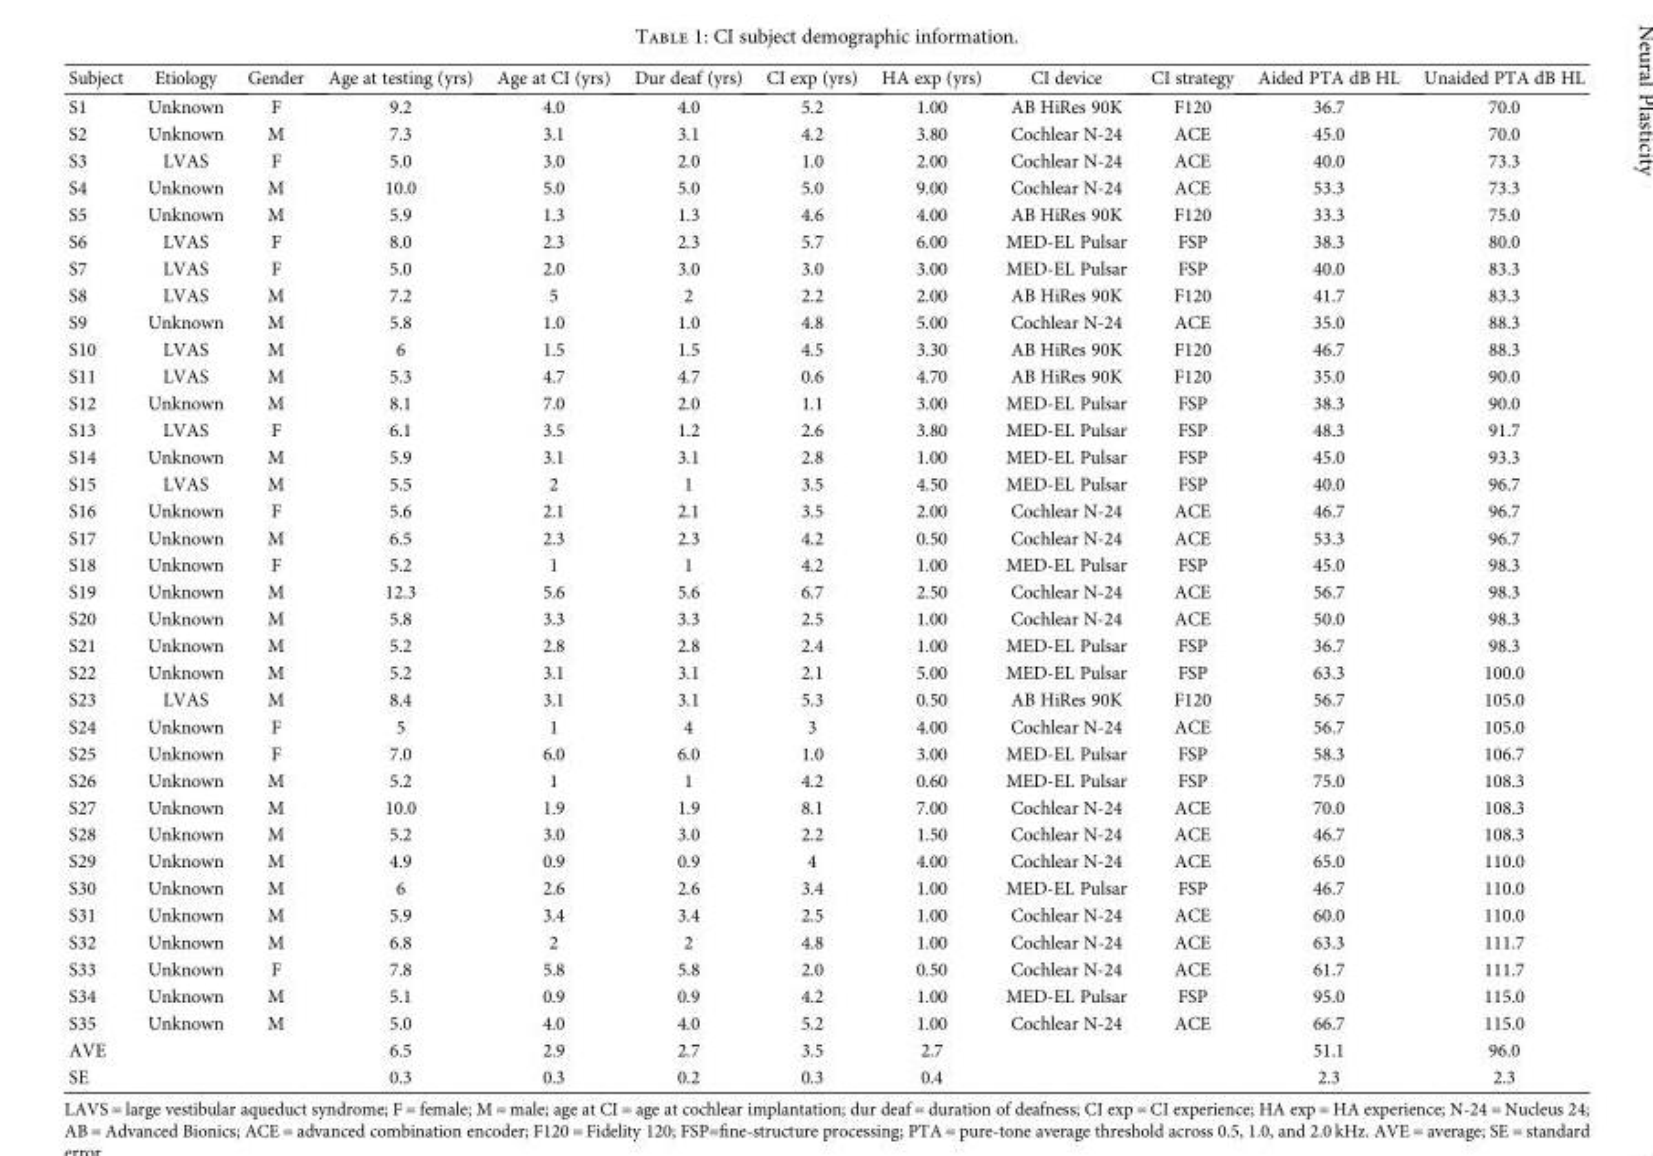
<table><thead><tr><td>Subject</td><td>Etiology</td><td>Gender</td><td>Age at testing (yrs)</td><td>Age at CI (yrs)</td><td>Dur deaf (yrs)</td><td>CI exp (yrs)</td><td>HA exp (yrs)</td><td>CI device</td><td>CI strategy</td><td>Aided PTA dB HL</td><td>Unaided PTA dB HL</td></tr></thead><tbody><tr><td>S1</td><td>Unknown</td><td>F</td><td>9.2</td><td>4.0</td><td>4.0</td><td>5.2</td><td>1.00</td><td>AB HiRes 90K</td><td>F120</td><td>36.7</td><td>70.0</td></tr><tr><td>S2</td><td>Unknown</td><td>M</td><td>7.3</td><td>3.1</td><td>3.1</td><td>4.2</td><td>3.80</td><td>Cochlear N-24</td><td>ACE</td><td>45.0</td><td>70.0</td></tr><tr><td>S3</td><td>LVAS</td><td>F</td><td>5.0</td><td>3.0</td><td>2.0</td><td>1.0</td><td>2.00</td><td>Cochlear N-24</td><td>ACE</td><td>40.0</td><td>73.3</td></tr><tr><td>S4</td><td>Unknown</td><td>M</td><td>10.0</td><td>5.0</td><td>5.0</td><td>5.0</td><td>9.00</td><td>Cochlear N-24</td><td>ACE</td><td>53.3</td><td>73.3</td></tr><tr><td>S5</td><td>Unknown</td><td>M</td><td>5.9</td><td>1.3</td><td>1.3</td><td>4.6</td><td>4.00</td><td>AB HiRes 90K</td><td>F120</td><td>33.3</td><td>75.0</td></tr><tr><td>S6</td><td>LVAS</td><td>F</td><td>8.0</td><td>2.3</td><td>2.3</td><td>5.7</td><td>6.00</td><td>MED-EL Pulsar</td><td>FSP</td><td>38.3</td><td>80.0</td></tr><tr><td>S7</td><td>LVAS</td><td>F</td><td>5.0</td><td>2.0</td><td>3.0</td><td>3.0</td><td>3.00</td><td>MED-EL Pulsar</td><td>FSP</td><td>40.0</td><td>83.3</td></tr><tr><td>S8</td><td>LVAS</td><td>M</td><td>7.2</td><td>5</td><td>2</td><td>2.2</td><td>2.00</td><td>AB HiRes 90K</td><td>F120</td><td>41.7</td><td>83.3</td></tr><tr><td>S9</td><td>Unknown</td><td>M</td><td>5.8</td><td>1.0</td><td>1.0</td><td>4.8</td><td>5.00</td><td>Cochlear N-24</td><td>ACE</td><td>35.0</td><td>88.3</td></tr><tr><td>S10</td><td>LVAS</td><td>M</td><td>6</td><td>1.5</td><td>1.5</td><td>4.5</td><td>3.30</td><td>AB HiRes 90K</td><td>F120</td><td>46.7</td><td>88.3</td></tr><tr><td>S11</td><td>LVAS</td><td>M</td><td>5.3</td><td>4.7</td><td>4.7</td><td>0.6</td><td>4.70</td><td>AB HiRes 90K</td><td>F120</td><td>35.0</td><td>90.0</td></tr><tr><td>S12</td><td>Unknown</td><td>M</td><td>8.1</td><td>7.0</td><td>2.0</td><td>1.1</td><td>3.00</td><td>MED-EL Pulsar</td><td>FSP</td><td>38.3</td><td>90.0</td></tr><tr><td>S13</td><td>LVAS</td><td>F</td><td>6.1</td><td>3.5</td><td>1.2</td><td>2.6</td><td>3.80</td><td>MED-EL Pulsar</td><td>FSP</td><td>48.3</td><td>91.7</td></tr><tr><td>S14</td><td>Unknown</td><td>M</td><td>5.9</td><td>3.1</td><td>3.1</td><td>2.8</td><td>1.00</td><td>MED-EL Pulsar</td><td>FSP</td><td>45.0</td><td>93.3</td></tr><tr><td>S15</td><td>LVAS</td><td>M</td><td>5.5</td><td>2</td><td>1</td><td>3.5</td><td>4.50</td><td>MED-EL Pulsar</td><td>FSP</td><td>40.0</td><td>96.7</td></tr><tr><td>S16</td><td>Unknown</td><td>F</td><td>5.6</td><td>2.1</td><td>2.1</td><td>3.5</td><td>2.00</td><td>Cochlear N-24</td><td>ACE</td><td>46.7</td><td>96.7</td></tr><tr><td>S17</td><td>Unknown</td><td>M</td><td>6.5</td><td>2.3</td><td>2.3</td><td>4.2</td><td>0.50</td><td>Cochlear N-24</td><td>ACE</td><td>53.3</td><td>96.7</td></tr><tr><td>S18</td><td>Unknown</td><td>F</td><td>5.2</td><td>1</td><td>1</td><td>4.2</td><td>1.00</td><td>MED-EL Pulsar</td><td>FSP</td><td>45.0</td><td>98.3</td></tr><tr><td>S19</td><td>Unknown</td><td>M</td><td>12.3</td><td>5.6</td><td>5.6</td><td>6.7</td><td>2.50</td><td>Cochlear N-24</td><td>ACE</td><td>56.7</td><td>98.3</td></tr><tr><td>S20</td><td>Unknown</td><td>M</td><td>5.8</td><td>3.3</td><td>3.3</td><td>2.5</td><td>1.00</td><td>Cochlear N-24</td><td>ACE</td><td>50.0</td><td>98.3</td></tr><tr><td>S21</td><td>Unknown</td><td>M</td><td>5.2</td><td>2.8</td><td>2.8</td><td>2.4</td><td>1.00</td><td>MED-EL Pulsar</td><td>FSP</td><td>36.7</td><td>98.3</td></tr><tr><td>S22</td><td>Unknown</td><td>M</td><td>5.2</td><td>3.1</td><td>3.1</td><td>2.1</td><td>5.00</td><td>MED-EL Pulsar</td><td>FSP</td><td>63.3</td><td>100.0</td></tr><tr><td>S23</td><td>LVAS</td><td>M</td><td>8.4</td><td>3.1</td><td>3.1</td><td>5.3</td><td>0.50</td><td>AB HiRes 90K</td><td>F120</td><td>56.7</td><td>105.0</td></tr><tr><td>S24</td><td>Unknown</td><td>F</td><td>5</td><td>1</td><td>4</td><td>3</td><td>4.00</td><td>Cochlear N-24</td><td>ACE</td><td>56.7</td><td>105.0</td></tr><tr><td>S25</td><td>Unknown</td><td>F</td><td>7.0</td><td>6.0</td><td>6.0</td><td>1.0</td><td>3.00</td><td>MED-EL Pulsar</td><td>FSP</td><td>58.3</td><td>106.7</td></tr><tr><td>S26</td><td>Unknown</td><td>M</td><td>5.2</td><td>1</td><td>1</td><td>4.2</td><td>0.60</td><td>MED-EL Pulsar</td><td>FSP</td><td>75.0</td><td>108.3</td></tr><tr><td>S27</td><td>Unknown</td><td>M</td><td>10.0</td><td>1.9</td><td>1.9</td><td>8.1</td><td>7.00</td><td>Cochlear N-24</td><td>ACE</td><td>70.0</td><td>108.3</td></tr><tr><td>S28</td><td>Unknown</td><td>M</td><td>5.2</td><td>3.0</td><td>3.0</td><td>2.2</td><td>1.50</td><td>Cochlear N-24</td><td>ACE</td><td>46.7</td><td>108.3</td></tr><tr><td>S29</td><td>Unknown</td><td>M</td><td>4.9</td><td>0.9</td><td>0.9</td><td>4</td><td>4.00</td><td>Cochlear N-24</td><td>ACE</td><td>65.0</td><td>110.0</td></tr><tr><td>S30</td><td>Unknown</td><td>M</td><td>6</td><td>2.6</td><td>2.6</td><td>3.4</td><td>1.00</td><td>MED-EL Pulsar</td><td>FSP</td><td>46.7</td><td>110.0</td></tr><tr><td>S31</td><td>Unknown</td><td>M</td><td>5.9</td><td>3.4</td><td>3.4</td><td>2.5</td><td>1.00</td><td>Cochlear N-24</td><td>ACE</td><td>60.0</td><td>110.0</td></tr><tr><td>S32</td><td>Unknown</td><td>M</td><td>6.8</td><td>2</td><td>2</td><td>4.8</td><td>1.00</td><td>Cochlear N-24</td><td>ACE</td><td>63.3</td><td>111.7</td></tr><tr><td>S33</td><td>Unknown</td><td>F</td><td>7.8</td><td>5.8</td><td>5.8</td><td>2.0</td><td>0.50</td><td>Cochlear N-24</td><td>ACE</td><td>61.7</td><td>111.7</td></tr><tr><td>S34</td><td>Unknown</td><td>M</td><td>5.1</td><td>0.9</td><td>0.9</td><td>4.2</td><td>1.00</td><td>MED-EL Pulsar</td><td>FSP</td><td>95.0</td><td>115.0</td></tr><tr><td>S35</td><td>Unknown</td><td>M</td><td>5.0</td><td>4.0</td><td>4.0</td><td>5.2</td><td>1.00</td><td>Cochlear N-24</td><td>ACE</td><td>66.7</td><td>115.0</td></tr><tr><td>AVE</td><td></td><td></td><td>6.5</td><td>2.9</td><td>2.7</td><td>3.5</td><td>2.7</td><td></td><td></td><td>51.1</td><td>96.0</td></tr><tr><td>SE</td><td></td><td></td><td>0.3</td><td>0.3</td><td>0.2</td><td>0.3</td><td>0.4</td><td></td><td></td><td>2.3</td><td>2.3</td></tr></tbody></table>